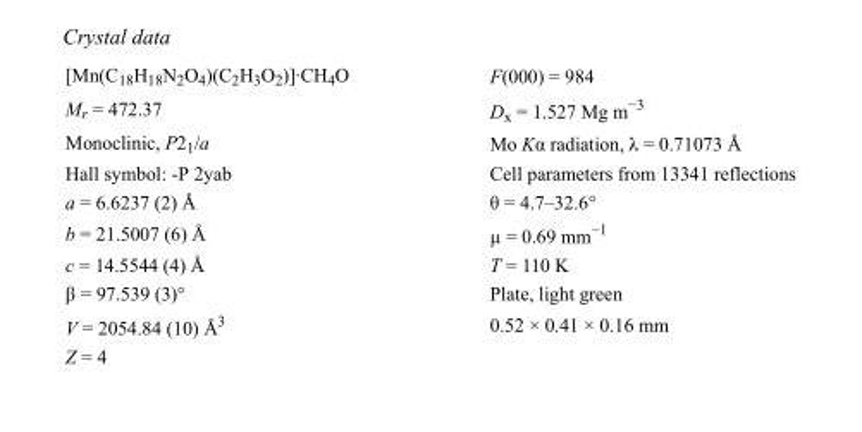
<table><tbody><tr><td>[Mn(C<sub>18</sub>H<sub>18</sub>N<sub>2</sub>O<sub>4</sub>)(C<sub>2</sub>H<sub>3</sub>O<sub>2</sub>)]·CH<sub>4</sub>O</td><td>F(000) = 984</td></tr><tr><td>M<sub>r</sub> = 472.37</td><td>D<sub>x</sub> = 1.527 Mg m<sup>−3</sup></td></tr><tr><td>Monoclinic, P2<sub>1</sub>/a</td><td>Mo Kα radiation, λ = 0.71073 Å</td></tr><tr><td>Hall symbol: -P 2yab</td><td>Cell parameters from 13341 reflections</td></tr><tr><td>a = 6.6237 (2) Å</td><td>θ = 4.7–32.6°</td></tr><tr><td>b = 21.5007 (6) Å</td><td>µ = 0.69 mm<sup>−1</sup></td></tr><tr><td>c = 14.5544 (4) Å</td><td>T = 110 K</td></tr><tr><td>β = 97.539 (3)°</td><td>Plate, light green</td></tr><tr><td>V = 2054.84 (10) Å<sup>3</sup></td><td>0.52 × 0.41 × 0.16 mm</td></tr><tr><td>Z = 4</td><td></td></tr></tbody></table>